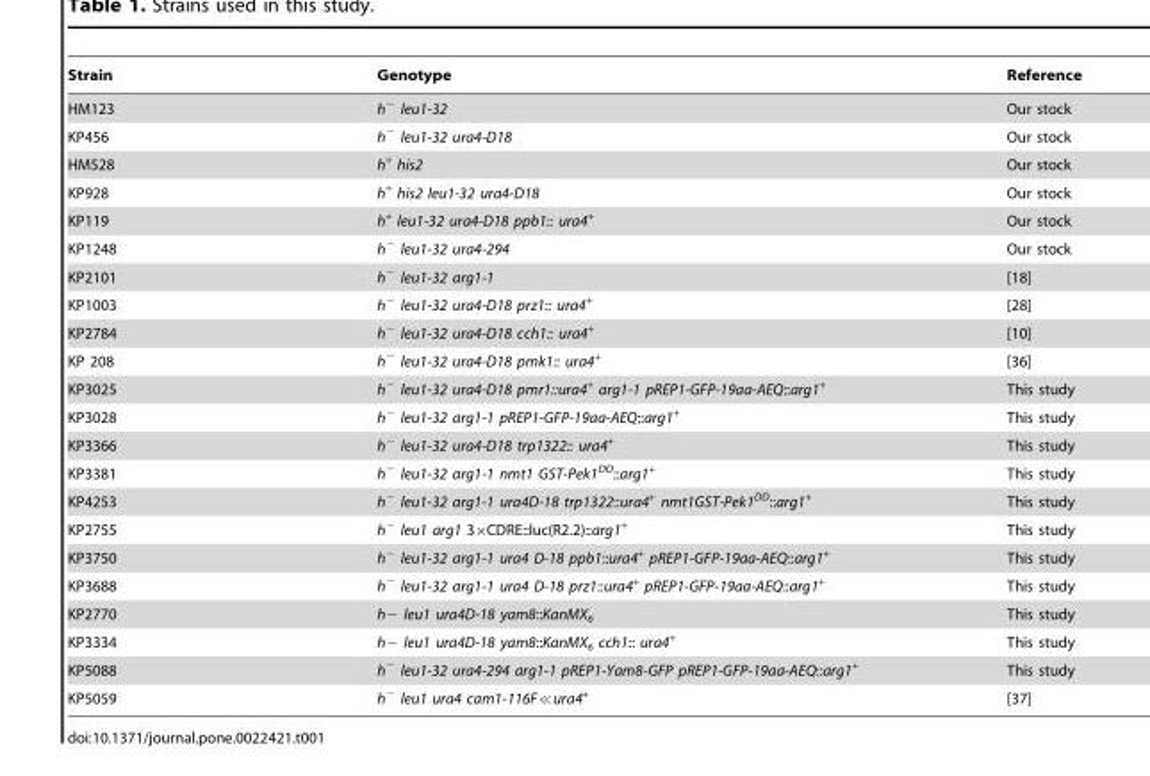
<table><thead><tr><td>Strain</td><td>Genotype</td><td>Reference</td></tr></thead><tbody><tr><td>HM123</td><td>h<sup>−</sup> leu1-32</td><td>Our stock</td></tr><tr><td>KP456</td><td>h<sup>−</sup> leu1-32 ura4-D18</td><td>Our stock</td></tr><tr><td>HM528</td><td>h<sup>+</sup> his2</td><td>Our stock</td></tr><tr><td>KP928</td><td>h<sup>+</sup> his2 leu1-32 ura4-D18</td><td>Our stock</td></tr><tr><td>KP119</td><td>h<sup>+</sup> leu1-32 ura4-D18 ppb1:: ura4<sup>+</sup></td><td>Our stock</td></tr><tr><td>KP1248</td><td>h<sup>−</sup> leu1-32 ura4-294</td><td>Our stock</td></tr><tr><td>KP2101</td><td>h<sup>−</sup> leu1-32 arg1-1</td><td>[18]</td></tr><tr><td>KP1003</td><td>h<sup>−</sup> leu1-32 ura4-D18 prz1:: ura4<sup>+</sup></td><td>[28]</td></tr><tr><td>KP2784</td><td>h<sup>−</sup> leu1-32 ura4-D18 cch1:: ura4<sup>+</sup></td><td>[10]</td></tr><tr><td>KP 208</td><td>h<sup>−</sup> leu1-32 ura4-D18 pmk1:: ura4<sup>+</sup></td><td>[36]</td></tr><tr><td>KP3025</td><td>h<sup>−</sup> leu1-32 ura4-D18 pmr1::ura4<sup>+</sup> arg1-1 pREP1-GFP-19aa-AEQ::arg1<sup>+</sup></td><td>This study</td></tr><tr><td>KP3028</td><td>h<sup>−</sup> leu1-32 arg1-1 pREP1-GFP-19aa-AEQ::arg1<sup>+</sup></td><td>This study</td></tr><tr><td>KP3366</td><td>h<sup>−</sup> leu1-32 ura4-D18 trp1322:: ura4<sup>+</sup></td><td>This study</td></tr><tr><td>KP3381</td><td>h<sup>−</sup> leu1-32 arg1-1 nmt1 GST-Pek1<sup>DD</sup>::arg1<sup>+</sup></td><td>This study</td></tr><tr><td>KP4253</td><td>h<sup>−</sup> leu1-32 arg1-1 ura4D-18 trp1322::ura4<sup>+</sup> nmt1GST-Pek1<sup>DD</sup>::arg1<sup>+</sup></td><td>This study</td></tr><tr><td>KP2755</td><td>h<sup>−</sup> leu1 arg1 3×CDRE::luc(R2.2)::arg1<sup>+</sup></td><td>This study</td></tr><tr><td>KP3750</td><td>h<sup>−</sup> leu1-32 arg1-1 ura4 D-18 ppb1::ura4<sup>+</sup> pREP1-GFP-19aa-AEQ::arg1<sup>+</sup></td><td>This study</td></tr><tr><td>KP3688</td><td>h<sup>−</sup> leu1-32 arg1-1 ura4 D-18 prz1::ura4<sup>+</sup> pREP1-GFP-19aa-AEQ::arg1<sup>+</sup></td><td>This study</td></tr><tr><td>KP2770</td><td>h− leu1 ura4D-18 yam8::KanMX<sub>6</sub></td><td>This study</td></tr><tr><td>KP3334</td><td>h− leu1 ura4D-18 yam8::KanMX<sub>6</sub> cch1:: ura4<sup>+</sup></td><td>This study</td></tr><tr><td>KP5088</td><td>h<sup>−</sup> leu1-32 ura4-294 arg1-1 pREP1-Yam8-GFP pREP1-GFP-19aa-AEQ::arg1<sup>+</sup></td><td>This study</td></tr><tr><td>KP5059</td><td>h<sup>−</sup> leu1 ura4 cam1-116F≪ura4<sup>+</sup></td><td>[37]</td></tr></tbody></table>